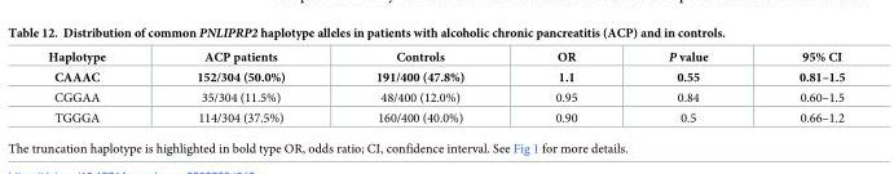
<table><thead><tr><td>Haplotype</td><td>ACP patients</td><td>Controls</td><td>OR</td><td>P value</td><td>95% CI</td></tr></thead><tbody><tr><td>CAAAC</td><td>152/304 (50.0%)</td><td>191/400 (47.8%)</td><td>1.1</td><td>0.55</td><td>0.81–1.5</td></tr><tr><td>CGGAA</td><td>35/304 (11.5%)</td><td>48/400 (12.0%)</td><td>0.95</td><td>0.84</td><td>0.60–1.5</td></tr><tr><td>TGGGA</td><td>114/304 (37.5%)</td><td>160/400 (40.0%)</td><td>0.90</td><td>0.5</td><td>0.66–1.2</td></tr></tbody></table>